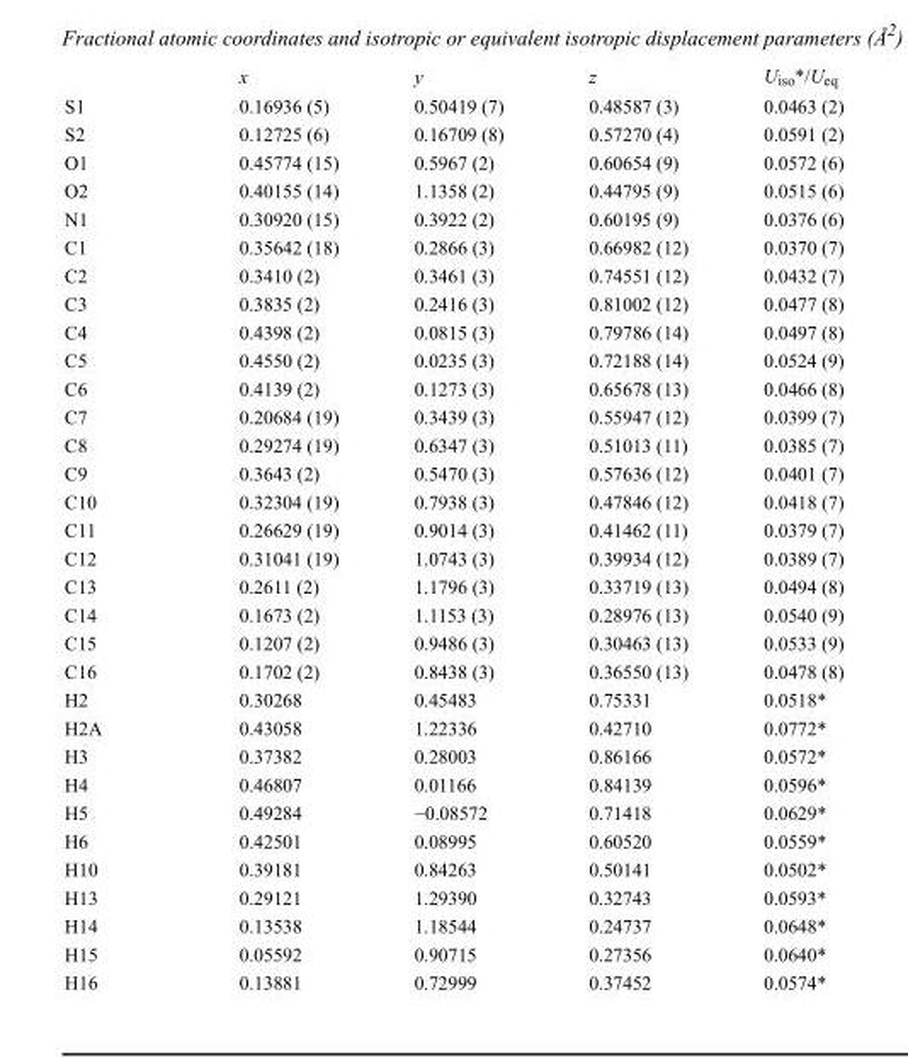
<table><thead><tr><td></td><td>x</td><td>y</td><td>z</td><td>U<sub>iso</sub>*/U<sub>eq</sub></td></tr></thead><tbody><tr><td>S1</td><td>0.16936 (5)</td><td>0.50419 (7)</td><td>0.48587 (3)</td><td>0.0463 (2)</td></tr><tr><td>S2</td><td>0.12725 (6)</td><td>0.16709 (8)</td><td>0.57270 (4)</td><td>0.0591 (2)</td></tr><tr><td>O1</td><td>0.45774 (15)</td><td>0.5967 (2)</td><td>0.60654 (9)</td><td>0.0572 (6)</td></tr><tr><td>O2</td><td>0.40155 (14)</td><td>1.1358 (2)</td><td>0.44795 (9)</td><td>0.0515 (6)</td></tr><tr><td>N1</td><td>0.30920 (15)</td><td>0.3922 (2)</td><td>0.60195 (9)</td><td>0.0376 (6)</td></tr><tr><td>C1</td><td>0.35642 (18)</td><td>0.2866 (3)</td><td>0.66982 (12)</td><td>0.0370 (7)</td></tr><tr><td>C2</td><td>0.3410 (2)</td><td>0.3461 (3)</td><td>0.74551 (12)</td><td>0.0432 (7)</td></tr><tr><td>C3</td><td>0.3835 (2)</td><td>0.2416 (3)</td><td>0.81002 (12)</td><td>0.0477 (8)</td></tr><tr><td>C4</td><td>0.4398 (2)</td><td>0.0815 (3)</td><td>0.79786 (14)</td><td>0.0497 (8)</td></tr><tr><td>C5</td><td>0.4550 (2)</td><td>0.0235 (3)</td><td>0.72188 (14)</td><td>0.0524 (9)</td></tr><tr><td>C6</td><td>0.4139 (2)</td><td>0.1273 (3)</td><td>0.65678 (13)</td><td>0.0466 (8)</td></tr><tr><td>C7</td><td>0.20684 (19)</td><td>0.3439 (3)</td><td>0.55947 (12)</td><td>0.0399 (7)</td></tr><tr><td>C8</td><td>0.29274 (19)</td><td>0.6347 (3)</td><td>0.51013 (11)</td><td>0.0385 (7)</td></tr><tr><td>C9</td><td>0.3643 (2)</td><td>0.5470 (3)</td><td>0.57636 (12)</td><td>0.0401 (7)</td></tr><tr><td>C10</td><td>0.32304 (19)</td><td>0.7938 (3)</td><td>0.47846 (12)</td><td>0.0418 (7)</td></tr><tr><td>C11</td><td>0.26629 (19)</td><td>0.9014 (3)</td><td>0.41462 (11)</td><td>0.0379 (7)</td></tr><tr><td>C12</td><td>0.31041 (19)</td><td>1.0743 (3)</td><td>0.39934 (12)</td><td>0.0389 (7)</td></tr><tr><td>C13</td><td>0.2611 (2)</td><td>1.1796 (3)</td><td>0.33719 (13)</td><td>0.0494 (8)</td></tr><tr><td>C14</td><td>0.1673 (2)</td><td>1.1153 (3)</td><td>0.28976 (13)</td><td>0.0540 (9)</td></tr><tr><td>C15</td><td>0.1207 (2)</td><td>0.9486 (3)</td><td>0.30463 (13)</td><td>0.0533 (9)</td></tr><tr><td>C16</td><td>0.1702 (2)</td><td>0.8438 (3)</td><td>0.36550 (13)</td><td>0.0478 (8)</td></tr><tr><td>H2</td><td>0.30268</td><td>0.45483</td><td>0.75331</td><td>0.0518*</td></tr><tr><td>H2A</td><td>0.43058</td><td>1.22336</td><td>0.42710</td><td>0.0772*</td></tr><tr><td>H3</td><td>0.37382</td><td>0.28003</td><td>0.86166</td><td>0.0572*</td></tr><tr><td>H4</td><td>0.46807</td><td>0.01166</td><td>0.84139</td><td>0.0596*</td></tr><tr><td>H5</td><td>0.49284</td><td>−0.08572</td><td>0.71418</td><td>0.0629*</td></tr><tr><td>H6</td><td>0.42501</td><td>0.08995</td><td>0.60520</td><td>0.0559*</td></tr><tr><td>H10</td><td>0.39181</td><td>0.84263</td><td>0.50141</td><td>0.0502*</td></tr><tr><td>H13</td><td>0.29121</td><td>1.29390</td><td>0.32743</td><td>0.0593*</td></tr><tr><td>H14</td><td>0.13538</td><td>1.18544</td><td>0.24737</td><td>0.0648*</td></tr><tr><td>H15</td><td>0.05592</td><td>0.90715</td><td>0.27356</td><td>0.0640*</td></tr><tr><td>H16</td><td>0.13881</td><td>0.72999</td><td>0.37452</td><td>0.0574*</td></tr></tbody></table>